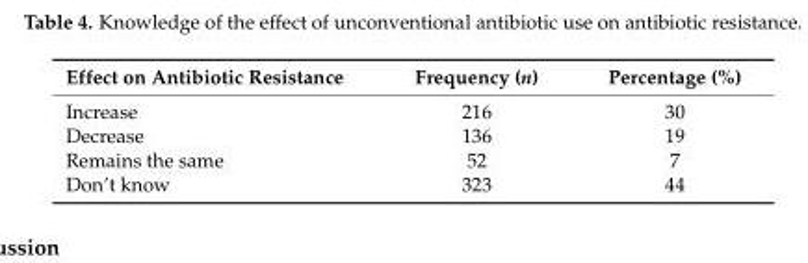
<table><thead><tr><td>Effect on Antibiotic Resistance</td><td>Frequency (n)</td><td>Percentage (%)</td></tr></thead><tbody><tr><td>Increase</td><td>216</td><td>30</td></tr><tr><td>Decrease</td><td>136</td><td>19</td></tr><tr><td>Remains the same</td><td>52</td><td>7</td></tr><tr><td>Don’t know</td><td>323</td><td>44</td></tr></tbody></table>